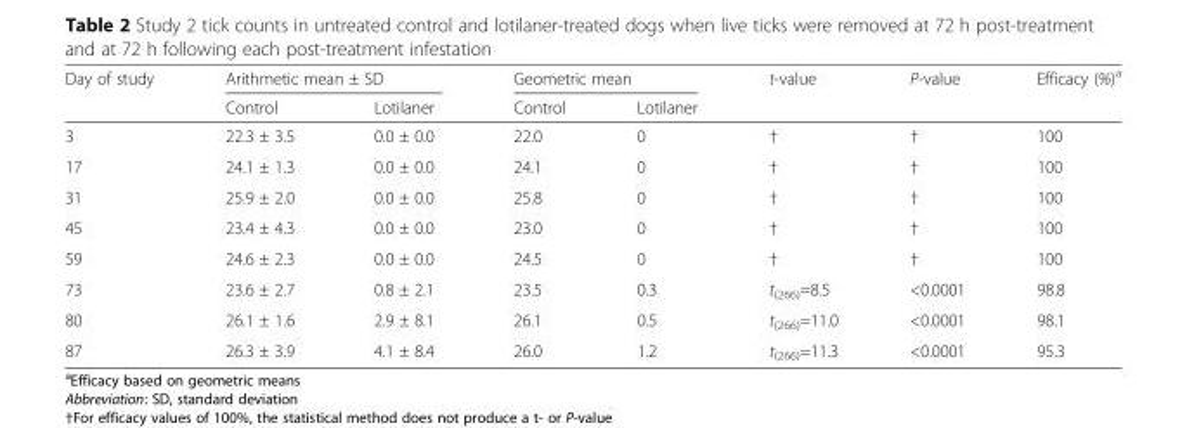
<table><thead><tr><td rowspan="2">Day of study</td><td colspan="2">Arithmetic mean ± SD</td><td colspan="2">Geometric mean</td><td rowspan="2">t-value</td><td rowspan="2">P-value</td><td rowspan="2">Efficacy (%)<sup>a</sup></td></tr><tr><td>Control</td><td>Lotilaner</td><td>Control</td><td>Lotilaner</td></tr></thead><tbody><tr><td>3</td><td>22.3 ± 3.5</td><td>0.0 ± 0.0</td><td>22.0</td><td>0</td><td>†</td><td>†</td><td>100</td></tr><tr><td>17</td><td>24.1 ± 1.3</td><td>0.0 ± 0.0</td><td>24.1</td><td>0</td><td>†</td><td>†</td><td>100</td></tr><tr><td>31</td><td>25.9 ± 2.0</td><td>0.0 ± 0.0</td><td>25.8</td><td>0</td><td>†</td><td>†</td><td>100</td></tr><tr><td>45</td><td>23.4 ± 4.3</td><td>0.0 ± 0.0</td><td>23.0</td><td>0</td><td>†</td><td>†</td><td>100</td></tr><tr><td>59</td><td>24.6 ± 2.3</td><td>0.0 ± 0.0</td><td>24.5</td><td>0</td><td>†</td><td>†</td><td>100</td></tr><tr><td>73</td><td>23.6 ± 2.7</td><td>0.8 ± 2.1</td><td>23.5</td><td>0.3</td><td>t<sub>(266)</sub>=8.5</td><td>&lt;0.0001</td><td>98.8</td></tr><tr><td>80</td><td>26.1 ± 1.6</td><td>2.9 ± 8.1</td><td>26.1</td><td>0.5</td><td>t<sub>(266)</sub>=11.0</td><td>&lt;0.0001</td><td>98.1</td></tr><tr><td>87</td><td>26.3 ± 3.9</td><td>4.1 ± 8.4</td><td>26.0</td><td>1.2</td><td>t<sub>(266)</sub>=11.3</td><td>&lt;0.0001</td><td>95.3</td></tr></tbody></table>